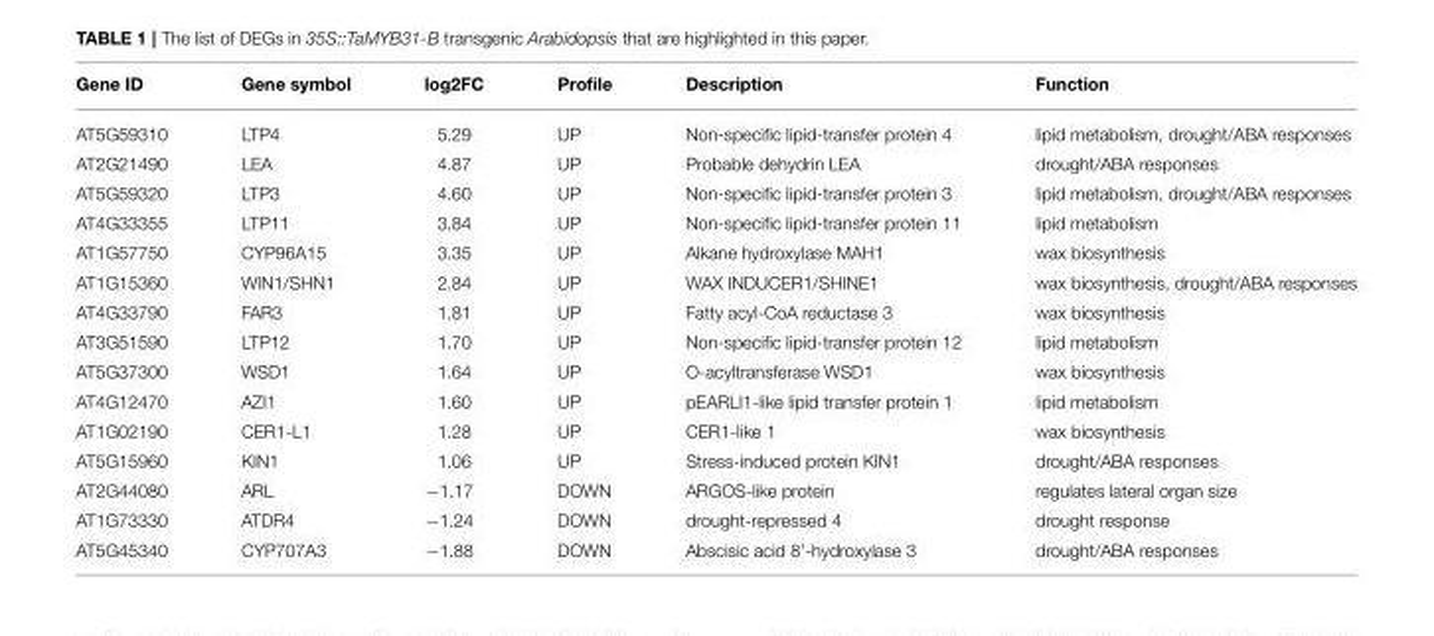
<table><thead><tr><td>Gene ID</td><td>Gene symbol</td><td>log2FC</td><td>Profile</td><td>Description</td><td>Function</td></tr></thead><tbody><tr><td>AT5G59310</td><td>LTP4</td><td>5.29</td><td>UP</td><td>Non-specific lipid-transfer protein 4</td><td>lipid metabolism, drought/ABA responses</td></tr><tr><td>AT2G21490</td><td>LEA</td><td>4.87</td><td>UP</td><td>Probable dehydrin LEA</td><td>drought/ABA responses</td></tr><tr><td>AT5G59320</td><td>LTP3</td><td>4.60</td><td>UP</td><td>Non-specific lipid-transfer protein 3</td><td>lipid metabolism, drought/ABA responses</td></tr><tr><td>AT4G33355</td><td>LTP11</td><td>3.84</td><td>UP</td><td>Non-specific lipid-transfer protein 11</td><td>lipid metabolism</td></tr><tr><td>AT1G57750</td><td>CYP96A15</td><td>3.35</td><td>UP</td><td>Alkane hydroxylase MAH1</td><td>wax biosynthesis</td></tr><tr><td>AT1G15360</td><td>WIN1/SHN1</td><td>2.84</td><td>UP</td><td>WAX INDUCER1/SHINE1</td><td>wax biosynthesis, drought/ABA responses</td></tr><tr><td>AT4G33790</td><td>FAR3</td><td>1.81</td><td>UP</td><td>Fatty acyl-CoA reductase 3</td><td>wax biosynthesis</td></tr><tr><td>AT3G51590</td><td>LTP12</td><td>1.70</td><td>UP</td><td>Non-specific lipid-transfer protein 12</td><td>lipid metabolism</td></tr><tr><td>AT5G37300</td><td>WSD1</td><td>1.64</td><td>UP</td><td>O-acyltransferase WSD1</td><td>wax biosynthesis</td></tr><tr><td>AT4G12470</td><td>AZI1</td><td>1.60</td><td>UP</td><td>pEARLI1-like lipid transfer protein 1</td><td>lipid metabolism</td></tr><tr><td>AT1G02190</td><td>CER1-L1</td><td>1.28</td><td>UP</td><td>CER1-like 1</td><td>wax biosynthesis</td></tr><tr><td>AT5G15960</td><td>KIN1</td><td>1.06</td><td>UP</td><td>Stress-induced protein KIN1</td><td>drought/ABA responses</td></tr><tr><td>AT2G44080</td><td>ARL</td><td>−1.17</td><td>DOWN</td><td>ARGOS-like protein</td><td>regulates lateral organ size</td></tr><tr><td>AT1G73330</td><td>ATDR4</td><td>−1.24</td><td>DOWN</td><td>drought-repressed 4</td><td>drought response</td></tr><tr><td>AT5G45340</td><td>CYP707A3</td><td>−1.88</td><td>DOWN</td><td>Abscisic acid 8’-hydroxylase 3</td><td>drought/ABA responses</td></tr></tbody></table>